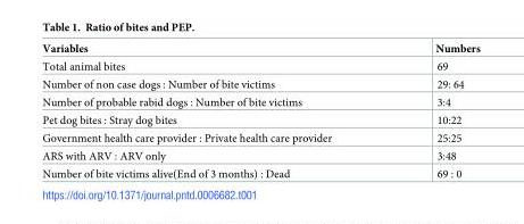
<table><thead><tr><td>Variables</td><td>Numbers</td></tr></thead><tbody><tr><td>Total animal bites</td><td>69</td></tr><tr><td>Number of non case dogs : Number of bite victims</td><td>29: 64</td></tr><tr><td>Number of probable rabid dogs : Number of bite victims</td><td>3:4</td></tr><tr><td>Pet dog bites : Stray dog bites</td><td>10:22</td></tr><tr><td>Government health care provider : Private health care provider</td><td>25:25</td></tr><tr><td>ARS with ARV : ARV only</td><td>3:48</td></tr><tr><td>Number of bite victims alive(End of 3 months) : Dead</td><td>69 : 0</td></tr></tbody></table>